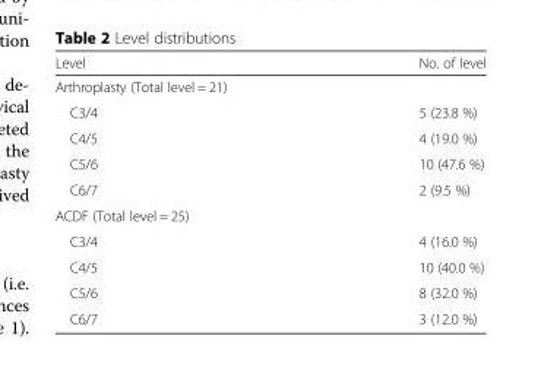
<table><thead><tr><td>Level</td><td>No. of level</td></tr></thead><tbody><tr><td colspan="2">Arthroplasty (Total level = 21)</td></tr><tr><td>C3/4</td><td>5 (23.8 %)</td></tr><tr><td>C4/5</td><td>4 (19.0 %)</td></tr><tr><td>C5/6</td><td>10 (47.6 %)</td></tr><tr><td>C6/7</td><td>2 (9.5 %)</td></tr><tr><td colspan="2">ACDF (Total level = 25)</td></tr><tr><td>C3/4</td><td>4 (16.0 %)</td></tr><tr><td>C4/5</td><td>10 (40.0 %)</td></tr><tr><td>C5/6</td><td>8 (32.0 %)</td></tr><tr><td>C6/7</td><td>3 (12.0 %)</td></tr></tbody></table>